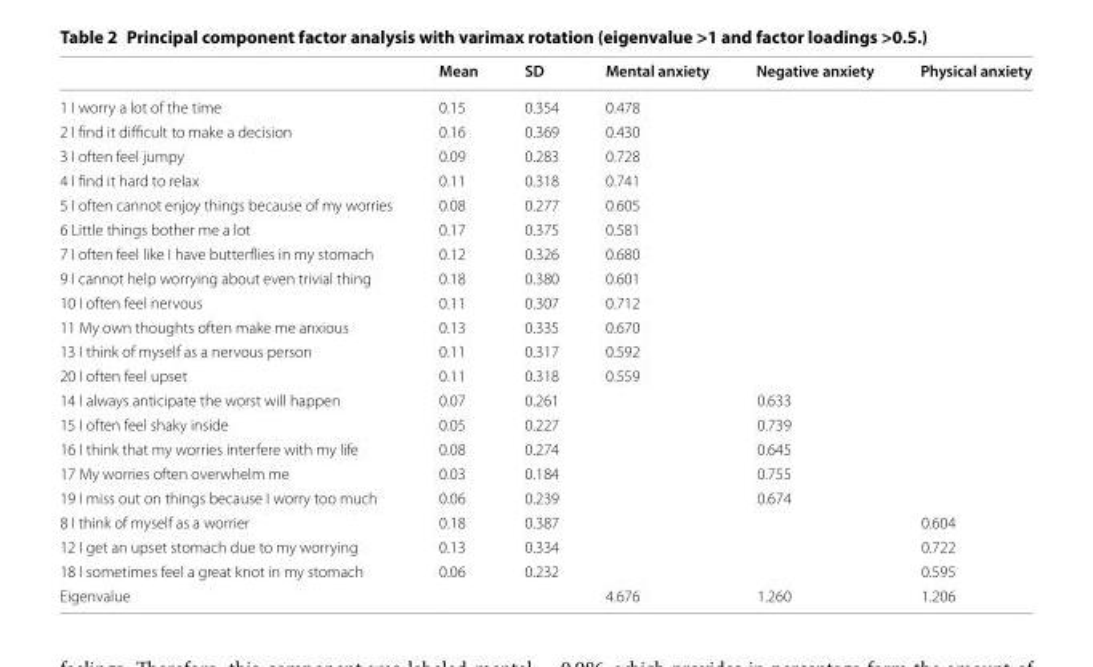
<table><thead><tr><td></td><td>Mean</td><td>SD</td><td>Mental anxiety</td><td>Negative anxiety</td><td>Physical anxiety</td></tr></thead><tbody><tr><td>1 I worry a lot of the time</td><td>0.15</td><td>0.354</td><td>0.478</td><td></td><td></td></tr><tr><td>2 I find it difficult to make a decision</td><td>0.16</td><td>0.369</td><td>0.430</td><td></td><td></td></tr><tr><td>3 I often feel jumpy</td><td>0.09</td><td>0.283</td><td>0.728</td><td></td><td></td></tr><tr><td>4 I find it hard to relax</td><td>0.11</td><td>0.318</td><td>0.741</td><td></td><td></td></tr><tr><td>5 I often cannot enjoy things because of my worries</td><td>0.08</td><td>0.277</td><td>0.605</td><td></td><td></td></tr><tr><td>6 Little things bother me a lot</td><td>0.17</td><td>0.375</td><td>0.581</td><td></td><td></td></tr><tr><td>7 I often feel like I have butterflies in my stomach</td><td>0.12</td><td>0.326</td><td>0.680</td><td></td><td></td></tr><tr><td>9 I cannot help worrying about even trivial thing</td><td>0.18</td><td>0.380</td><td>0.601</td><td></td><td></td></tr><tr><td>10 I often feel nervous</td><td>0.11</td><td>0.307</td><td>0.712</td><td></td><td></td></tr><tr><td>11 My own thoughts often make me anxious</td><td>0.13</td><td>0.335</td><td>0.670</td><td></td><td></td></tr><tr><td>13 I think of myself as a nervous person</td><td>0.11</td><td>0.317</td><td>0.592</td><td></td><td></td></tr><tr><td>20 I often feel upset</td><td>0.11</td><td>0.318</td><td>0.559</td><td></td><td></td></tr><tr><td>14 I always anticipate the worst will happen</td><td>0.07</td><td>0.261</td><td></td><td>0.633</td><td></td></tr><tr><td>15 I often feel shaky inside</td><td>0.05</td><td>0.227</td><td></td><td>0.739</td><td></td></tr><tr><td>16 I think that my worries interfere with my life</td><td>0.08</td><td>0.274</td><td></td><td>0.645</td><td></td></tr><tr><td>17 My worries often overwhelm me</td><td>0.03</td><td>0.184</td><td></td><td>0.755</td><td></td></tr><tr><td>19 I miss out on things because I worry too much</td><td>0.06</td><td>0.239</td><td></td><td>0.674</td><td></td></tr><tr><td>8 I think of myself as a worrier</td><td>0.18</td><td>0.387</td><td></td><td></td><td>0.604</td></tr><tr><td>12 I get an upset stomach due to my worrying</td><td>0.13</td><td>0.334</td><td></td><td></td><td>0.722</td></tr><tr><td>18 I sometimes feel a great knot in my stomach</td><td>0.06</td><td>0.232</td><td></td><td></td><td>0.595</td></tr><tr><td>Eigenvalue</td><td></td><td></td><td>4.676</td><td>1.260</td><td>1.206</td></tr></tbody></table>